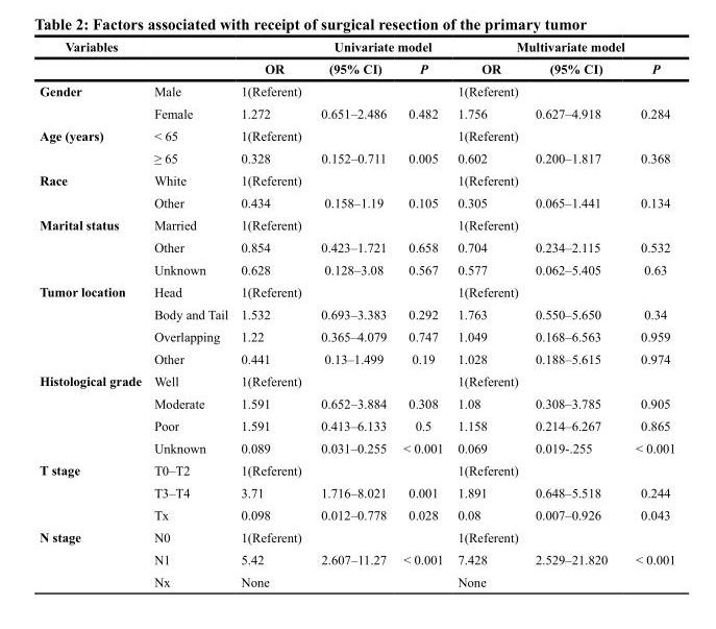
<table><thead><tr><td rowspan="2">Variables</td><td rowspan="2"></td><td rowspan="2">OR</td><td colspan="2">Univariate model</td><td colspan="3">Multivariate model</td></tr><tr><td>(95% CI)</td><td>P</td><td>OR</td><td>(95% CI)</td><td>P</td></tr></thead><tbody><tr><td rowspan="2">Gender</td><td>Male</td><td>1(Referent)</td><td></td><td></td><td>1(Referent)</td><td></td><td></td></tr><tr><td>Female</td><td>1.272</td><td>0.651–2.486</td><td>0.482</td><td>1.756</td><td>0.627–4.918</td><td>0.284</td></tr><tr><td rowspan="2">Age (years)</td><td>&lt; 65</td><td>1(Referent)</td><td></td><td></td><td>1(Referent)</td><td></td><td></td></tr><tr><td>≥ 65</td><td>0.328</td><td>0.152–0.711</td><td>0.005</td><td>0.602</td><td>0.200–1.817</td><td>0.368</td></tr><tr><td rowspan="2">Race</td><td>White</td><td>1(Referent)</td><td></td><td></td><td>1(Referent)</td><td></td><td></td></tr><tr><td>Other</td><td>0.434</td><td>0.158–1.19</td><td>0.105</td><td>0.305</td><td>0.065–1.441</td><td>0.134</td></tr><tr><td rowspan="3">Marital status</td><td>Married</td><td>1(Referent)</td><td></td><td></td><td>1(Referent)</td><td></td><td></td></tr><tr><td>Other</td><td>0.854</td><td>0.423–1.721</td><td>0.658</td><td>0.704</td><td>0.234–2.115</td><td>0.532</td></tr><tr><td>Unknown</td><td>0.628</td><td>0.128–3.08</td><td>0.567</td><td>0.577</td><td>0.062–5.405</td><td>0.63</td></tr><tr><td rowspan="4">Tumor location</td><td>Head</td><td>1(Referent)</td><td></td><td></td><td>1(Referent)</td><td></td><td></td></tr><tr><td>Body and Tail</td><td>1.532</td><td>0.693–3.383</td><td>0.292</td><td>1.763</td><td>0.550–5.650</td><td>0.34</td></tr><tr><td>Overlapping</td><td>1.22</td><td>0.365–4.079</td><td>0.747</td><td>1.049</td><td>0.168–6.563</td><td>0.959</td></tr><tr><td>Other</td><td>0.441</td><td>0.13–1.499</td><td>0.19</td><td>1.028</td><td>0.188–5.615</td><td>0.974</td></tr><tr><td rowspan="4">Histological grade</td><td>Well</td><td>1(Referent)</td><td></td><td></td><td>1(Referent)</td><td></td><td></td></tr><tr><td>Moderate</td><td>1.591</td><td>0.652–3.884</td><td>0.308</td><td>1.08</td><td>0.308–3.785</td><td>0.905</td></tr><tr><td>Poor</td><td>1.591</td><td>0.413–6.133</td><td>0.5</td><td>1.158</td><td>0.214–6.267</td><td>0.865</td></tr><tr><td>Unknown</td><td>0.089</td><td>0.031–0.255</td><td>&lt; 0.001</td><td>0.069</td><td>0.019-.255</td><td>&lt; 0.001</td></tr><tr><td rowspan="3">T stage</td><td>T0–T2</td><td>1(Referent)</td><td></td><td></td><td>1(Referent)</td><td></td><td></td></tr><tr><td>T3–T4</td><td>3.71</td><td>1.716–8.021</td><td>0.001</td><td>1.891</td><td>0.648–5.518</td><td>0.244</td></tr><tr><td>Tx</td><td>0.098</td><td>0.012–0.778</td><td>0.028</td><td>0.08</td><td>0.007–0.926</td><td>0.043</td></tr><tr><td rowspan="3">N stage</td><td>N0</td><td>1(Referent)</td><td></td><td></td><td>1(Referent)</td><td></td><td></td></tr><tr><td>N1</td><td>5.42</td><td>2.607–11.27</td><td>&lt; 0.001</td><td>7.428</td><td>2.529–21.820</td><td>&lt; 0.001</td></tr><tr><td>Nx</td><td>None</td><td></td><td></td><td>None</td><td></td><td></td></tr></tbody></table>